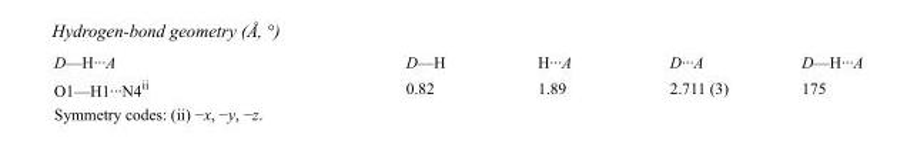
<table><tbody><tr><td>D—H···A</td><td>D—H</td><td>H···A</td><td>D···A</td><td>D—H···A</td></tr><tr><td>O1—H1···N4<sup>ii</sup></td><td>0.82</td><td>1.89</td><td>2.711 (3)</td><td>175</td></tr></tbody></table>